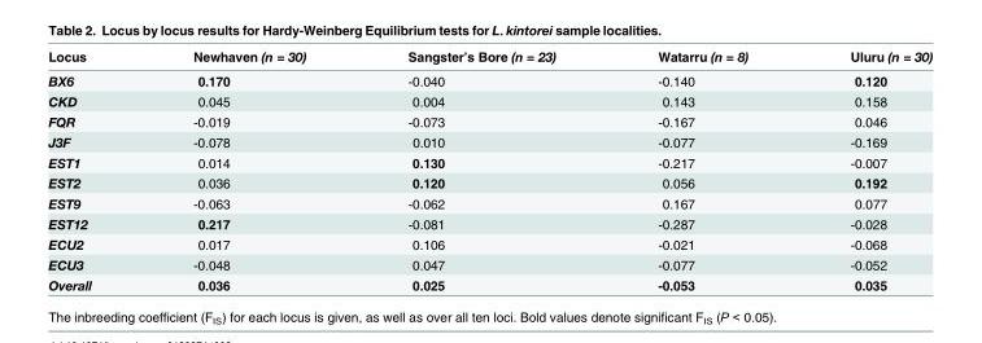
<table><thead><tr><td>Locus</td><td>Newhaven (n = 30)</td><td>Sangster’s Bore (n = 23)</td><td>Watarru (n = 8)</td><td>Uluru (n = 30)</td></tr></thead><tbody><tr><td>BX6</td><td>0.170</td><td>-0.040</td><td>-0.140</td><td>0.120</td></tr><tr><td>CKD</td><td>0.045</td><td>0.004</td><td>0.143</td><td>0.158</td></tr><tr><td>FQR</td><td>-0.019</td><td>-0.073</td><td>-0.167</td><td>0.046</td></tr><tr><td>J3F</td><td>-0.078</td><td>0.010</td><td>-0.077</td><td>-0.169</td></tr><tr><td>EST1</td><td>0.014</td><td>0.130</td><td>-0.217</td><td>-0.007</td></tr><tr><td>EST2</td><td>0.036</td><td>0.120</td><td>0.056</td><td>0.192</td></tr><tr><td>EST9</td><td>-0.063</td><td>-0.062</td><td>0.167</td><td>0.077</td></tr><tr><td>EST12</td><td>0.217</td><td>-0.081</td><td>-0.287</td><td>-0.028</td></tr><tr><td>ECU2</td><td>0.017</td><td>0.106</td><td>-0.021</td><td>-0.068</td></tr><tr><td>ECU3</td><td>-0.048</td><td>0.047</td><td>-0.077</td><td>-0.052</td></tr><tr><td>Overall</td><td>0.036</td><td>0.025</td><td>-0.053</td><td>0.035</td></tr></tbody></table>